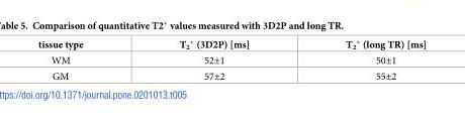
<table><thead><tr><td>tissue type</td><td>T<sub>2</sub>* (3D2P) [ms]</td><td>T<sub>2</sub>* (long TR) [ms]</td></tr></thead><tbody><tr><td>WM</td><td>52±1</td><td>50±1</td></tr><tr><td>GM</td><td>57±2</td><td>55±2</td></tr></tbody></table>